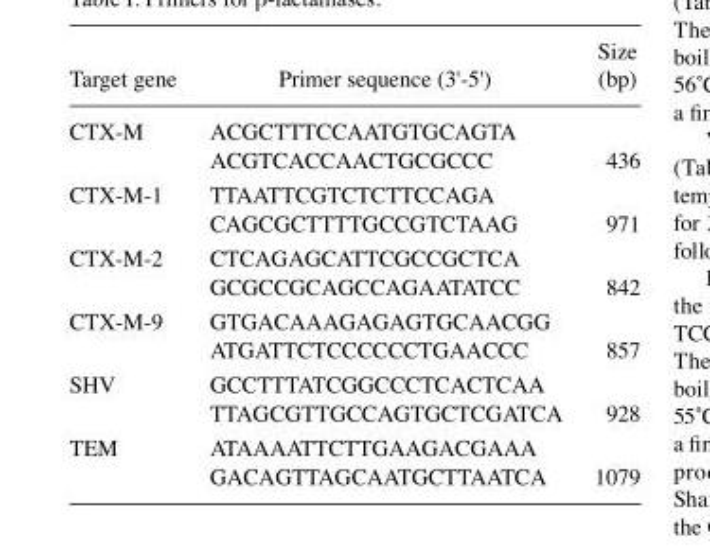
<table><thead><tr><td>Target gene</td><td>Primer sequence (3&#x27;-5&#x27;)</td><td>(bp)</td></tr></thead><tbody><tr><td rowspan="2">CTX-M</td><td>ACGCTTTCCAATGTGCAGTA</td><td></td></tr><tr><td>ACGTCACCAACTGCGCCC</td><td>436</td></tr><tr><td rowspan="2">CTX-M-1</td><td>TTAATTCGTCTCTTCCAGA</td><td></td></tr><tr><td>CAGCGCTTTTGCCGTCTAAG</td><td>971</td></tr><tr><td rowspan="2">CTX-M-2</td><td>CTCAGAGCATTCGCCGCTCA</td><td></td></tr><tr><td>GCGCCGCAGCCAGAATATCC</td><td>842</td></tr><tr><td rowspan="2">CTX-M-9</td><td>GTGACAAAGAGAGTGCAACGG</td><td></td></tr><tr><td>ATGATTCTCCCCCCTGAACCC</td><td>857</td></tr><tr><td rowspan="2">SHV</td><td>GCCTTTATCGGCCCTCACTCAA</td><td></td></tr><tr><td>TTAGCGTTGCCAGTGCTCGATCA</td><td>928</td></tr><tr><td rowspan="2">TEM</td><td>ATAAAATTCTTGAAGACGAAA</td><td></td></tr><tr><td>GACAGTTAGCAATGCTTAATCA</td><td>1079</td></tr></tbody></table>